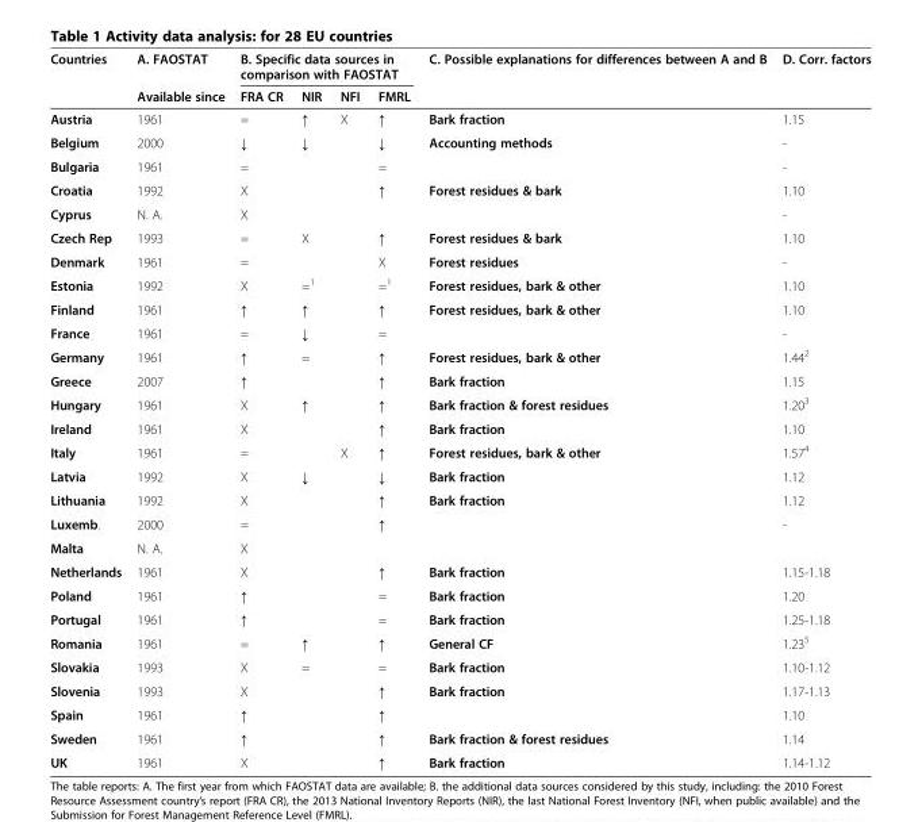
<table><thead><tr><td rowspan="2">Countries</td><td rowspan="2">A. FAOSTAT Available since</td><td colspan="4">B. Specific data sources in comparison with FAOSTAT</td><td rowspan="2">C. Possible explanations for differences between A and B</td><td rowspan="2">D. Corr. factors</td></tr><tr><td>FRA CR</td><td>NIR</td><td>NFI</td><td>FMRL</td></tr></thead><tbody><tr><td>Austria</td><td>1961</td><td>=</td><td>↑</td><td>X</td><td>↑</td><td>Bark fraction</td><td>1.15</td></tr><tr><td>Belgium</td><td>2000</td><td>↓</td><td>↓</td><td></td><td>↓</td><td>Accounting methods</td><td>-</td></tr><tr><td>Bulgaria</td><td>1961</td><td>=</td><td></td><td></td><td>=</td><td></td><td>-</td></tr><tr><td>Croatia</td><td>1992</td><td>X</td><td></td><td></td><td>↑</td><td>Forest residues &amp; bark</td><td>1.10</td></tr><tr><td>Cyprus</td><td>N. A.</td><td>X</td><td></td><td></td><td></td><td></td><td>-</td></tr><tr><td>Czech Rep</td><td>1993</td><td>=</td><td>X</td><td></td><td>↑</td><td>Forest residues &amp; bark</td><td>1.10</td></tr><tr><td>Denmark</td><td>1961</td><td>=</td><td></td><td></td><td>X</td><td>Forest residues</td><td>-</td></tr><tr><td>Estonia</td><td>1992</td><td>X</td><td>=<sup>1</sup></td><td></td><td>=<sup>1</sup></td><td>Forest residues, bark &amp; other</td><td>1.10</td></tr><tr><td>Finland</td><td>1961</td><td>↑</td><td>↑</td><td></td><td>↑</td><td>Forest residues, bark &amp; other</td><td>1.10</td></tr><tr><td>France</td><td>1961</td><td>=</td><td>↓</td><td></td><td>=</td><td></td><td>-</td></tr><tr><td>Germany</td><td>1961</td><td>↑</td><td>=</td><td></td><td>↑</td><td>Forest residues, bark &amp; other</td><td>1.44<sup>2</sup></td></tr><tr><td>Greece</td><td>2007</td><td>↑</td><td></td><td></td><td>↑</td><td>Bark fraction</td><td>1.15</td></tr><tr><td>Hungary</td><td>1961</td><td>X</td><td>↑</td><td></td><td>↑</td><td>Bark fraction &amp; forest residues</td><td>1.20<sup>3</sup></td></tr><tr><td>Ireland</td><td>1961</td><td>X</td><td></td><td></td><td>↑</td><td>Bark fraction</td><td>1.10</td></tr><tr><td>Italy</td><td>1961</td><td>=</td><td></td><td>X</td><td>↑</td><td>Forest residues, bark &amp; other</td><td>1.57<sup>4</sup></td></tr><tr><td>Latvia</td><td>1992</td><td>X</td><td>↓</td><td></td><td>↓</td><td>Bark fraction</td><td>1.12</td></tr><tr><td>Lithuania</td><td>1992</td><td>X</td><td></td><td></td><td>↑</td><td>Bark fraction</td><td>1.12</td></tr><tr><td>Luxemb.</td><td>2000</td><td>=</td><td></td><td></td><td>↑</td><td></td><td>-</td></tr><tr><td>Malta</td><td>N. A.</td><td>X</td><td></td><td></td><td></td><td></td><td></td></tr><tr><td>Netherlands</td><td>1961</td><td>X</td><td></td><td></td><td>↑</td><td>Bark fraction</td><td>1.15-1.18</td></tr><tr><td>Poland</td><td>1961</td><td>↑</td><td></td><td></td><td>=</td><td>Bark fraction</td><td>1.20</td></tr><tr><td>Portugal</td><td>1961</td><td>↑</td><td></td><td></td><td>=</td><td>Bark fraction</td><td>1.25-1.18</td></tr><tr><td>Romania</td><td>1961</td><td>=</td><td>↑</td><td></td><td>↑</td><td>General CF</td><td>1.23<sup>5</sup></td></tr><tr><td>Slovakia</td><td>1993</td><td>X</td><td>=</td><td></td><td>=</td><td>Bark fraction</td><td>1.10-1.12</td></tr><tr><td>Slovenia</td><td>1993</td><td>X</td><td></td><td></td><td>↑</td><td>Bark fraction</td><td>1.17-1.13</td></tr><tr><td>Spain</td><td>1961</td><td>↑</td><td></td><td></td><td>↑</td><td></td><td>1.10</td></tr><tr><td>Sweden</td><td>1961</td><td>↑</td><td></td><td></td><td>↑</td><td>Bark fraction &amp; forest residues</td><td>1.14</td></tr><tr><td>UK</td><td>1961</td><td>X</td><td></td><td></td><td>↑</td><td>Bark fraction</td><td>1.14-1.12</td></tr></tbody></table>